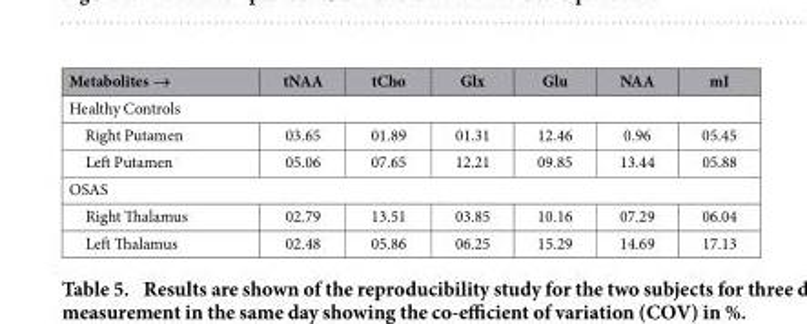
<table><thead><tr><td>Metabolites →</td><td>tNAA</td><td>tCho</td><td>Glx</td><td>Glu</td><td>NAA</td><td>mI</td></tr></thead><tbody><tr><td colspan="7">Healthy Controls</td></tr><tr><td>Right Putamen</td><td>03.65</td><td>01.89</td><td>01.31</td><td>12.46</td><td>0.96</td><td>05.45</td></tr><tr><td>Left Putamen</td><td>05.06</td><td>07.65</td><td>12.21</td><td>09.85</td><td>13.44</td><td>05.88</td></tr><tr><td colspan="7">OSAS</td></tr><tr><td>Right Thalamus</td><td>02.79</td><td>13.51</td><td>03.85</td><td>10.16</td><td>07.29</td><td>06.04</td></tr><tr><td>Left Thalamus</td><td>02.48</td><td>05.86</td><td>06.25</td><td>15.29</td><td>14.69</td><td>17.13</td></tr></tbody></table>